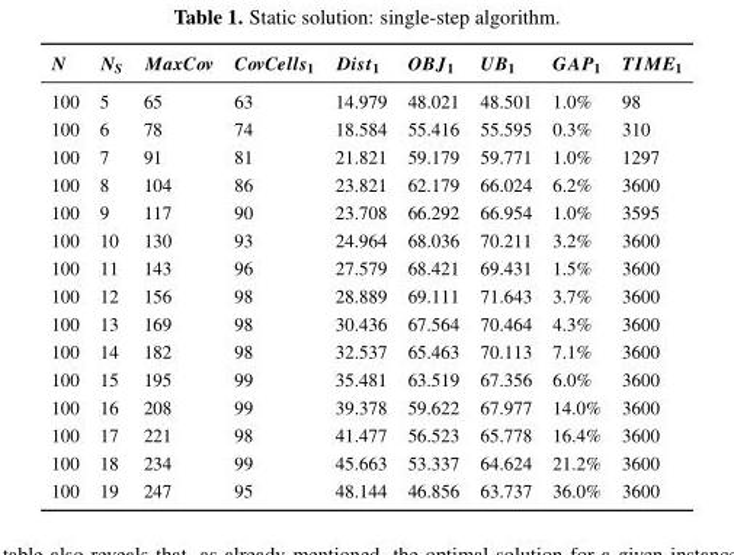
<table><thead><tr><td>N</td><td>N<sub>S</sub></td><td>MaxCov</td><td>CovCells<sub>1</sub></td><td>Dist<sub>1</sub></td><td>OBJ<sub>1</sub></td><td>UB<sub>1</sub></td><td>GAP<sub>1</sub></td><td>TIME<sub>1</sub></td></tr></thead><tbody><tr><td>100</td><td>5</td><td>65</td><td>63</td><td>14.979</td><td>48.021</td><td>48.501</td><td>1.0%</td><td>98</td></tr><tr><td>100</td><td>6</td><td>78</td><td>74</td><td>18.584</td><td>55.416</td><td>55.595</td><td>0.3%</td><td>310</td></tr><tr><td>100</td><td>7</td><td>91</td><td>81</td><td>21.821</td><td>59.179</td><td>59.771</td><td>1.0%</td><td>1297</td></tr><tr><td>100</td><td>8</td><td>104</td><td>86</td><td>23.821</td><td>62.179</td><td>66.024</td><td>6.2%</td><td>3600</td></tr><tr><td>100</td><td>9</td><td>117</td><td>90</td><td>23.708</td><td>66.292</td><td>66.954</td><td>1.0%</td><td>3595</td></tr><tr><td>100</td><td>10</td><td>130</td><td>93</td><td>24.964</td><td>68.036</td><td>70.211</td><td>3.2%</td><td>3600</td></tr><tr><td>100</td><td>11</td><td>143</td><td>96</td><td>27.579</td><td>68.421</td><td>69.431</td><td>1.5%</td><td>3600</td></tr><tr><td>100</td><td>12</td><td>156</td><td>98</td><td>28.889</td><td>69.111</td><td>71.643</td><td>3.7%</td><td>3600</td></tr><tr><td>100</td><td>13</td><td>169</td><td>98</td><td>30.436</td><td>67.564</td><td>70.464</td><td>4.3%</td><td>3600</td></tr><tr><td>100</td><td>14</td><td>182</td><td>98</td><td>32.537</td><td>65.463</td><td>70.113</td><td>7.1%</td><td>3600</td></tr><tr><td>100</td><td>15</td><td>195</td><td>99</td><td>35.481</td><td>63.519</td><td>67.356</td><td>6.0%</td><td>3600</td></tr><tr><td>100</td><td>16</td><td>208</td><td>99</td><td>39.378</td><td>59.622</td><td>67.977</td><td>14.0%</td><td>3600</td></tr><tr><td>100</td><td>17</td><td>221</td><td>98</td><td>41.477</td><td>56.523</td><td>65.778</td><td>16.4%</td><td>3600</td></tr><tr><td>100</td><td>18</td><td>234</td><td>99</td><td>45.663</td><td>53.337</td><td>64.624</td><td>21.2%</td><td>3600</td></tr><tr><td>100</td><td>19</td><td>247</td><td>95</td><td>48.144</td><td>46.856</td><td>63.737</td><td>36.0%</td><td>3600</td></tr></tbody></table>